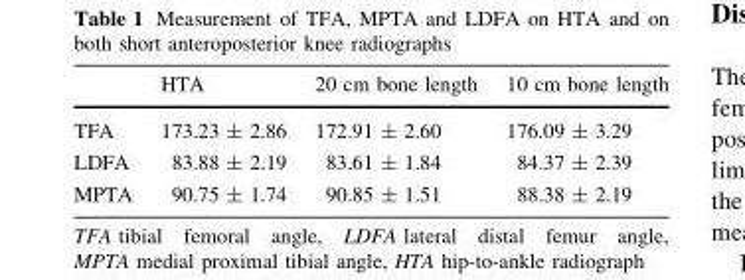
<table><thead><tr><td></td><td>HTA</td><td>20 cm bone length</td><td>10 cm bone length</td></tr></thead><tbody><tr><td>TFA</td><td>173.23 ± 2.86</td><td>172.91 ± 2.60</td><td>176.09 ± 3.29</td></tr><tr><td>LDFA</td><td>83.88 ± 2.19</td><td>83.61 ± 1.84</td><td>84.37 ± 2.39</td></tr><tr><td>MPTA</td><td>90.75 ± 1.74</td><td>90.85 ± 1.51</td><td>88.38 ± 2.19</td></tr></tbody></table>